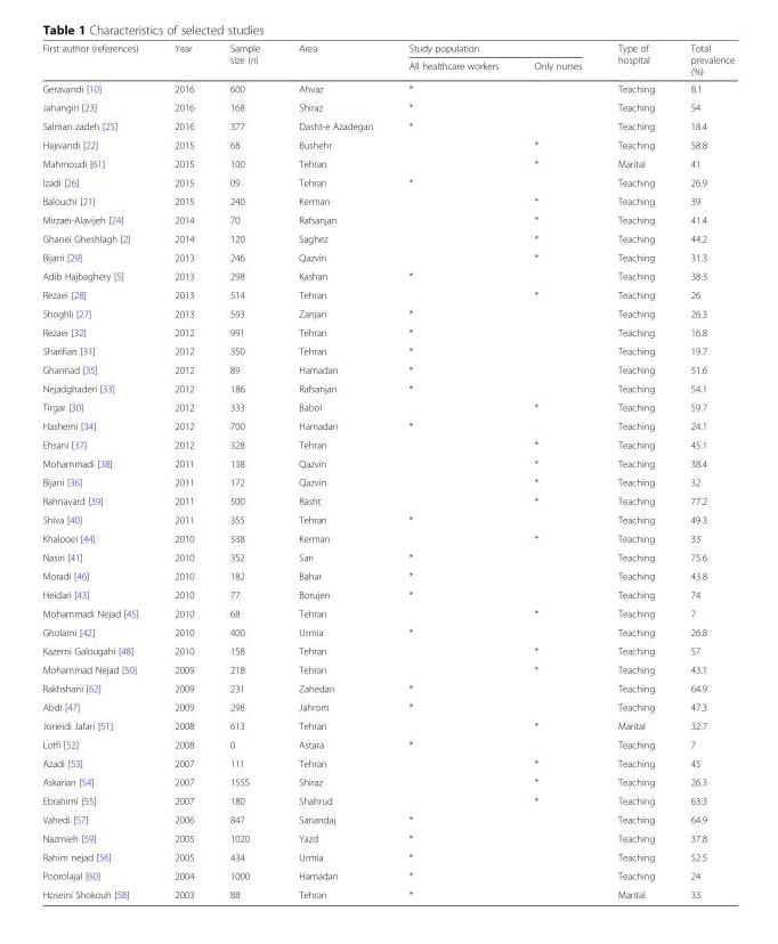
<table><thead><tr><td rowspan="2">First author (references)</td><td rowspan="2">Year</td><td rowspan="2">Sample size (n)</td><td rowspan="2">Area</td><td colspan="2">Study population</td><td rowspan="2">Type of hospital</td><td rowspan="2">Total prevalence (%)</td></tr><tr><td>All healthcare workers</td><td>Only nurses</td></tr></thead><tbody><tr><td>Geravandi [10]</td><td>2016</td><td>600</td><td>Ahvaz</td><td>*</td><td></td><td>Teaching</td><td>8.1</td></tr><tr><td>Jahangiri [23]</td><td>2016</td><td>168</td><td>Shiraz</td><td>*</td><td></td><td>Teaching</td><td>54</td></tr><tr><td>Salman zadeh [25]</td><td>2016</td><td>377</td><td>Dasht-e Azadegan</td><td>*</td><td></td><td>Teaching</td><td>18.4</td></tr><tr><td>Hajivandi [22]</td><td>2015</td><td>68</td><td>Bushehr</td><td></td><td>*</td><td>Teaching</td><td>58.8</td></tr><tr><td>Mahmoudi [61]</td><td>2015</td><td>100</td><td>Tehran</td><td></td><td>*</td><td>Marital</td><td>41</td></tr><tr><td>Izadi [26]</td><td>2015</td><td>09</td><td>Tehran</td><td>*</td><td></td><td>Teaching</td><td>26.9</td></tr><tr><td>Balouchi [21]</td><td>2015</td><td>240</td><td>Kerman</td><td></td><td>*</td><td>Teaching</td><td>39</td></tr><tr><td>Mirzaei-Alavijeh [24]</td><td>2014</td><td>70</td><td>Rafsanjan</td><td></td><td>*</td><td>Teaching</td><td>41.4</td></tr><tr><td>Ghanei Gheshlagh [2]</td><td>2014</td><td>120</td><td>Saghez</td><td></td><td>*</td><td>Teaching</td><td>44.2</td></tr><tr><td>Bijani [29]</td><td>2013</td><td>246</td><td>Qazvin</td><td></td><td>*</td><td>Teaching</td><td>31.3</td></tr><tr><td>Adib Hajbaghery [5]</td><td>2013</td><td>298</td><td>Kashan</td><td>*</td><td></td><td>Teaching</td><td>38.3</td></tr><tr><td>Rezaei [28]</td><td>2013</td><td>514</td><td>Tehran</td><td></td><td>*</td><td>Teaching</td><td>26</td></tr><tr><td>Shoghli [27]</td><td>2013</td><td>593</td><td>Zanjan</td><td>*</td><td></td><td>Teaching</td><td>26.3</td></tr><tr><td>Rezaei [32]</td><td>2012</td><td>991</td><td>Tehran</td><td>*</td><td></td><td>Teaching</td><td>16.8</td></tr><tr><td>Sharifian [31]</td><td>2012</td><td>350</td><td>Tehran</td><td>*</td><td></td><td>Teaching</td><td>19.7</td></tr><tr><td>Ghannad [35]</td><td>2012</td><td>89</td><td>Hamadan</td><td>*</td><td></td><td>Teaching</td><td>51.6</td></tr><tr><td>Nejadghaderi [33]</td><td>2012</td><td>186</td><td>Rafsanjan</td><td>*</td><td></td><td>Teaching</td><td>54.1</td></tr><tr><td>Tirgar [30]</td><td>2012</td><td>333</td><td>Babol</td><td></td><td>*</td><td>Teaching</td><td>59.7</td></tr><tr><td>Hashemi [34]</td><td>2012</td><td>700</td><td>Hamadan</td><td>*</td><td></td><td>Teaching</td><td>24.1</td></tr><tr><td>Ehsani [37]</td><td>2012</td><td>328</td><td>Tehran</td><td></td><td>*</td><td>Teaching</td><td>45.1</td></tr><tr><td>Mohammadi [38]</td><td>2011</td><td>138</td><td>Qazvin</td><td></td><td>*</td><td>Teaching</td><td>38.4</td></tr><tr><td>Bijani [36]</td><td>2011</td><td>172</td><td>Qazvin</td><td></td><td>*</td><td>Teaching</td><td>32</td></tr><tr><td>Rahnavard [39]</td><td>2011</td><td>500</td><td>Rasht</td><td></td><td>*</td><td>Teaching</td><td>77.2</td></tr><tr><td>Shiva [40]</td><td>2011</td><td>355</td><td>Tehran</td><td>*</td><td></td><td>Teaching</td><td>49.3</td></tr><tr><td>Khalooei [44]</td><td>2010</td><td>338</td><td>Kerman</td><td></td><td>*</td><td>Teaching</td><td>33</td></tr><tr><td>Nasiri [41]</td><td>2010</td><td>352</td><td>Sari</td><td>*</td><td></td><td>Teaching</td><td>75.6</td></tr><tr><td>Moradi [46]</td><td>2010</td><td>182</td><td>Bahar</td><td>*</td><td></td><td>Teaching</td><td>43.8</td></tr><tr><td>Heidari [43]</td><td>2010</td><td>77</td><td>Borujen</td><td>*</td><td></td><td>Teaching</td><td>74</td></tr><tr><td>Mohammadi Nejad [45]</td><td>2010</td><td>68</td><td>Tehran</td><td></td><td>*</td><td>Teaching</td><td>7</td></tr><tr><td>Gholami [42]</td><td>2010</td><td>400</td><td>Urmia</td><td>*</td><td></td><td>Teaching</td><td>26.8</td></tr><tr><td>Kazemi Galougahi [48]</td><td>2010</td><td>158</td><td>Tehran</td><td></td><td>*</td><td>Teaching</td><td>57</td></tr><tr><td>Mohammad Nejad [50]</td><td>2009</td><td>218</td><td>Tehran</td><td></td><td>*</td><td>Teaching</td><td>43.1</td></tr><tr><td>Rakhshani [62]</td><td>2009</td><td>231</td><td>Zahedan</td><td>*</td><td></td><td>Teaching</td><td>64.9</td></tr><tr><td>Abdi [47]</td><td>2009</td><td>298</td><td>Jahrom</td><td>*</td><td></td><td>Teaching</td><td>47.3</td></tr><tr><td>Joneidi Jafari [51]</td><td>2008</td><td>613</td><td>Tehran</td><td></td><td>*</td><td>Marital</td><td>32.7</td></tr><tr><td>Lotfi [52]</td><td>2008</td><td>0</td><td>Astara</td><td>*</td><td></td><td>Teaching</td><td>7</td></tr><tr><td>Azadi [53]</td><td>2007</td><td>111</td><td>Tehran</td><td></td><td>*</td><td>Teaching</td><td>45</td></tr><tr><td>Askarian [54]</td><td>2007</td><td>1555</td><td>Shiraz</td><td></td><td>*</td><td>Teaching</td><td>26.3</td></tr><tr><td>Ebrahimi [55]</td><td>2007</td><td>180</td><td>Shahrud</td><td></td><td>*</td><td>Teaching</td><td>63.3</td></tr><tr><td>Vahedi [57]</td><td>2006</td><td>847</td><td>Sanandaj</td><td>*</td><td></td><td>Teaching</td><td>64.9</td></tr><tr><td>Nazmieh [59]</td><td>2005</td><td>1020</td><td>Yazd</td><td>*</td><td></td><td>Teaching</td><td>37.8</td></tr><tr><td>Rahim nejad [56]</td><td>2005</td><td>434</td><td>Urmia</td><td>*</td><td></td><td>Teaching</td><td>52.5</td></tr><tr><td>Poorolajal [60]</td><td>2004</td><td>1000</td><td>Hamadan</td><td>*</td><td></td><td>Teaching</td><td>24</td></tr><tr><td>Hoseini Shokouh [58]</td><td>2003</td><td>88</td><td>Tehran</td><td>*</td><td></td><td>Marital</td><td>33</td></tr></tbody></table>